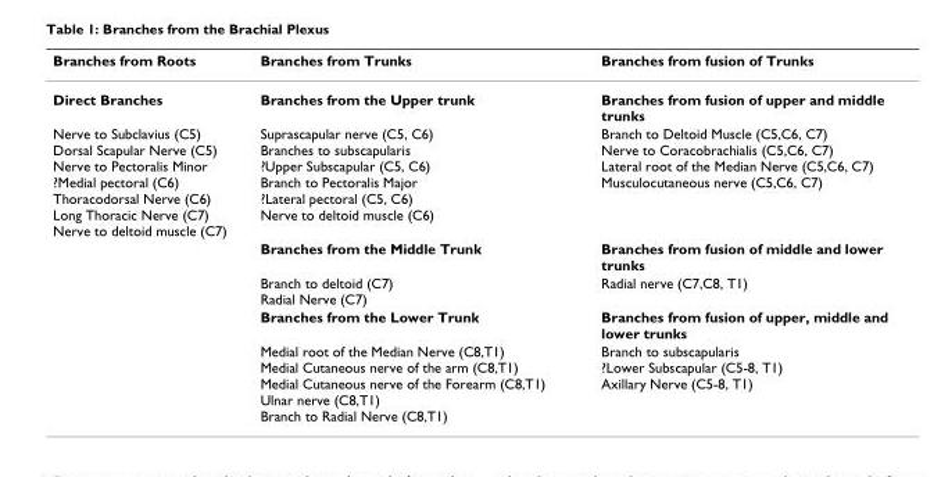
<table><thead><tr><td>Branches from Roots</td><td>Branches from Trunks</td><td>Branches from fusion of Trunks</td></tr></thead><tbody><tr><td>Direct Branches</td><td>Branches from the Upper trunk</td><td>Branches from fusion of upper and middle trunks</td></tr><tr><td rowspan="5">Nerve to Subclavius (C5) Dorsal Scapular Nerve (C5) Nerve to Pectoralis Minor ?Medial pectoral (C6) Thoracodorsal Nerve (C6) Long Thoracic Nerve (C7) Nerve to deltoid muscle (C7)</td><td>Suprascapular nerve (C5, C6) Branches to subscapularis ?Upper Subscapular (C5, C6) Branch to Pectoralis Major ?Lateral pectoral (C5, C6) Nerve to deltoid muscle (C6)</td><td>Branch to Deltoid Muscle (C5,C6, C7) Nerve to Coracobrachialis (C5,C6, C7) Lateral root of the Median Nerve (C5,C6, C7) Musculocutaneous nerve (C5,C6, C7)</td></tr><tr><td>Branches from the Middle Trunk</td><td>Branches from fusion of middle and lower trunks</td></tr><tr><td>Branch to deltoid (C7) Radial Nerve (C7)</td><td>Radial nerve (C7,C8, T1)</td></tr><tr><td>Branches from the Lower Trunk</td><td>Branches from fusion of upper, middle and lower trunks</td></tr><tr><td>Medial root of the Median Nerve (C8,T1) Medial Cutaneous nerve of the arm (C8,T1) Medial Cutaneous nerve of the Forearm (C8,T1) Ulnar nerve (C8,T1) Branch to Radial Nerve (C8,T1)</td><td>Branch to subscapularis ?Lower Subscapular (C5-8, T1) Axillary Nerve (C5-8, T1)</td></tr></tbody></table>